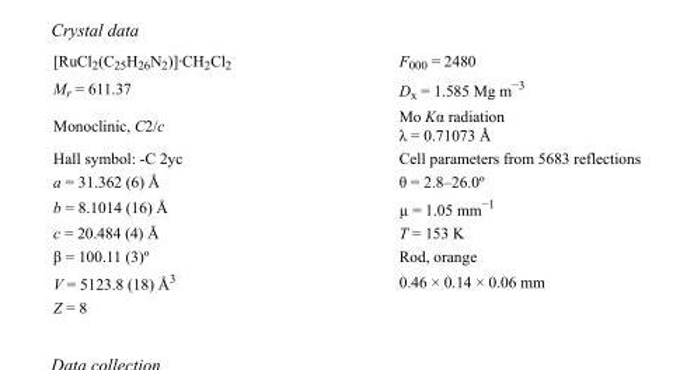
<table><tbody><tr><td>[RuCl<sub>2</sub>(C<sub>25</sub>H<sub>26</sub>N<sub>2</sub>)]·CH<sub>2</sub>Cl<sub>2</sub></td><td>F000 = 2480</td></tr><tr><td>M<sub>r</sub> = 611.37</td><td>D<sub>x</sub> = 1.585 Mg m<sup>−3</sup></td></tr><tr><td>Monoclinic, C2/c</td><td>Mo Kα radiation λ = 0.71073 Å</td></tr><tr><td>Hall symbol: -C 2yc</td><td>Cell parameters from 5683 reflections</td></tr><tr><td>a = 31.362 (6) Å</td><td>θ = 2.8–26.0º</td></tr><tr><td>b = 8.1014 (16) Å</td><td>µ = 1.05 mm<sup>−1</sup></td></tr><tr><td>c = 20.484 (4) Å</td><td>T = 153 K</td></tr><tr><td>β = 100.11 (3)º</td><td>Rod, orange</td></tr><tr><td>V = 5123.8 (18) Å<sup>3</sup></td><td>0.46 × 0.14 × 0.06 mm</td></tr><tr><td>Z = 8</td><td></td></tr></tbody></table>